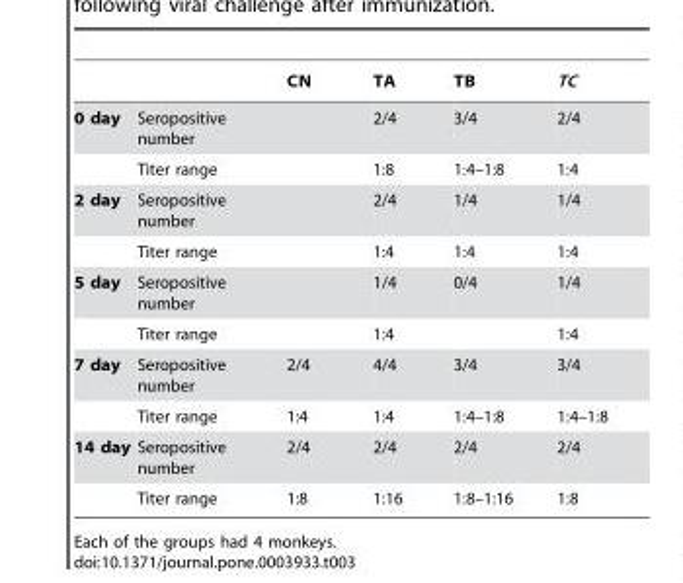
<table><thead><tr><td></td><td></td><td>CN</td><td>TA</td><td>TB</td><td>TC</td></tr></thead><tbody><tr><td rowspan="2">0 day</td><td>Seropositive number</td><td></td><td>2/4</td><td>3/4</td><td>2/4</td></tr><tr><td>Titer range</td><td></td><td>1:8</td><td>1:4–1:8</td><td>1:4</td></tr><tr><td rowspan="2">2 day</td><td>Seropositive number</td><td></td><td>2/4</td><td>1/4</td><td>1/4</td></tr><tr><td>Titer range</td><td></td><td>1:4</td><td>1:4</td><td>1:4</td></tr><tr><td rowspan="2">5 day</td><td>Seropositive number</td><td></td><td>1/4</td><td>0/4</td><td>1/4</td></tr><tr><td>Titer range</td><td></td><td>1:4</td><td></td><td>1:4</td></tr><tr><td rowspan="2">7 day</td><td>Seropositive number</td><td>2/4</td><td>4/4</td><td>3/4</td><td>3/4</td></tr><tr><td>Titer range</td><td>1:4</td><td>1:4</td><td>1:4–1:8</td><td>1:4–1:8</td></tr><tr><td rowspan="2">14 day</td><td>Seropositive number</td><td>2/4</td><td>2/4</td><td>2/4</td><td>2/4</td></tr><tr><td>Titer range</td><td>1:8</td><td>1:16</td><td>1:8–1:16</td><td>1:8</td></tr></tbody></table>